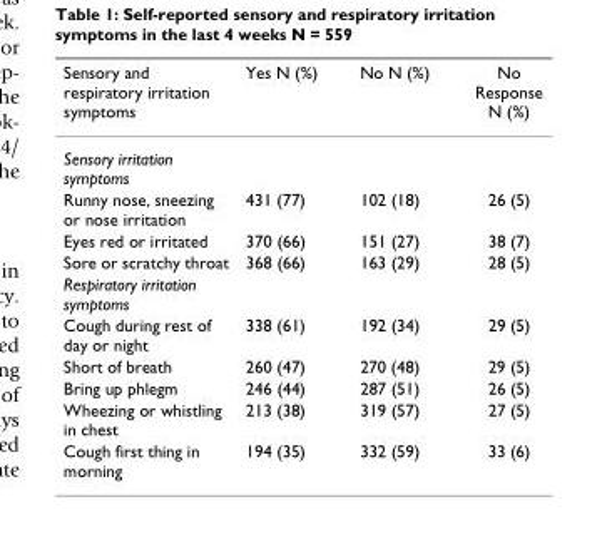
<table><thead><tr><td>Sensory and respiratory irritation symptoms</td><td>Yes N (%)</td><td>No N (%)</td><td>No Response N (%)</td></tr></thead><tbody><tr><td colspan="4">Sensory irritation symptoms</td></tr><tr><td>Runny nose, sneezing or nose irritation</td><td>431 (77)</td><td>102 (18)</td><td>26 (5)</td></tr><tr><td>Eyes red or irritated</td><td>370 (66)</td><td>151 (27)</td><td>38 (7)</td></tr><tr><td>Sore or scratchy throat</td><td>368 (66)</td><td>163 (29)</td><td>28 (5)</td></tr><tr><td colspan="4">Respiratory irritation symptoms</td></tr><tr><td>Cough during rest of day or night</td><td>338 (61)</td><td>192 (34)</td><td>29 (5)</td></tr><tr><td>Short of breath</td><td>260 (47)</td><td>270 (48)</td><td>29 (5)</td></tr><tr><td>Bring up phlegm</td><td>246 (44)</td><td>287 (51)</td><td>26 (5)</td></tr><tr><td>Wheezing or whistling in chest</td><td>213 (38)</td><td>319 (57)</td><td>27 (5)</td></tr><tr><td>Cough first thing in morning</td><td>194 (35)</td><td>332 (59)</td><td>33 (6)</td></tr></tbody></table>